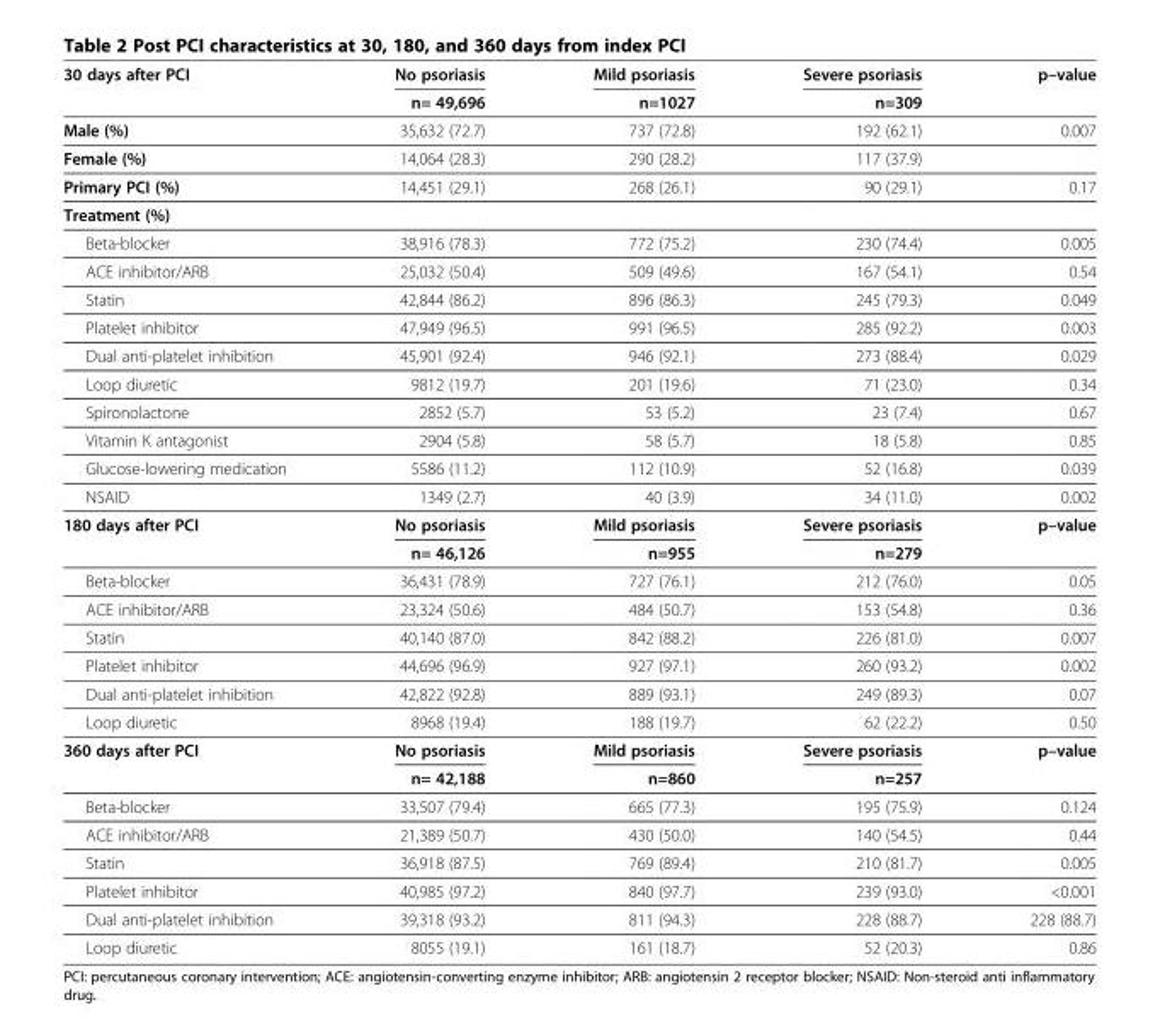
<table><thead><tr><td rowspan="2">30 days after PCI</td><td rowspan="2">No psoriasis n= 49,696</td><td rowspan="2">Mild psoriasis n=1027</td><td rowspan="2">Severe psoriasis n=309</td><td rowspan="2">p–value</td></tr><tr></tr></thead><tbody><tr><td>Male (%)</td><td>35,632 (72.7)</td><td>737 (72.8)</td><td>192 (62.1)</td><td>0.007</td></tr><tr><td>Female (%)</td><td>14,064 (28.3)</td><td>290 (28.2)</td><td>117 (37.9)</td><td></td></tr><tr><td>Primary PCI (%)</td><td>14,451 (29.1)</td><td>268 (26.1)</td><td>90 (29.1)</td><td>0.17</td></tr><tr><td colspan="5">Treatment (%)</td></tr><tr><td>Beta-blocker</td><td>38,916 (78.3)</td><td>772 (75.2)</td><td>230 (74.4)</td><td>0.005</td></tr><tr><td>ACE inhibitor/ARB</td><td>25,032 (50.4)</td><td>509 (49.6)</td><td>167 (54.1)</td><td>0.54</td></tr><tr><td>Statin</td><td>42,844 (86.2)</td><td>896 (86.3)</td><td>245 (79.3)</td><td>0.049</td></tr><tr><td>Platelet inhibitor</td><td>47,949 (96.5)</td><td>991 (96.5)</td><td>285 (92.2)</td><td>0.003</td></tr><tr><td>Dual anti-platelet inhibition</td><td>45,901 (92.4)</td><td>946 (92.1)</td><td>273 (88.4)</td><td>0.029</td></tr><tr><td>Loop diuretic</td><td>9812 (19.7)</td><td>201 (19.6)</td><td>71 (23.0)</td><td>0.34</td></tr><tr><td>Spironolactone</td><td>2852 (5.7)</td><td>53 (5.2)</td><td>23 (7.4)</td><td>0.67</td></tr><tr><td>Vitamin K antagonist</td><td>2904 (5.8)</td><td>58 (5.7)</td><td>18 (5.8)</td><td>0.85</td></tr><tr><td>Glucose-lowering medication</td><td>5586 (11.2)</td><td>112 (10.9)</td><td>52 (16.8)</td><td>0.039</td></tr><tr><td>NSAID</td><td>1349 (2.7)</td><td>40 (3.9)</td><td>34 (11.0)</td><td>0.002</td></tr><tr><td rowspan="2">180 days after PCI</td><td>No psoriasis</td><td>Mild psoriasis</td><td>Severe psoriasis</td><td>p–value</td></tr><tr><td>n= 46,126</td><td>n=955</td><td>n=279</td><td></td></tr><tr><td>Beta-blocker</td><td>36,431 (78.9)</td><td>727 (76.1)</td><td>212 (76.0)</td><td>0.05</td></tr><tr><td>ACE inhibitor/ARB</td><td>23,324 (50.6)</td><td>484 (50.7)</td><td>153 (54.8)</td><td>0.36</td></tr><tr><td>Statin</td><td>40,140 (87.0)</td><td>842 (88.2)</td><td>226 (81.0)</td><td>0.007</td></tr><tr><td>Platelet inhibitor</td><td>44,696 (96.9)</td><td>927 (97.1)</td><td>260 (93.2)</td><td>0.002</td></tr><tr><td>Dual anti-platelet inhibition</td><td>42,822 (92.8)</td><td>889 (93.1)</td><td>249 (89.3)</td><td>0.07</td></tr><tr><td>Loop diuretic</td><td>8968 (19.4)</td><td>188 (19.7)</td><td>62 (22.2)</td><td>0.50</td></tr><tr><td rowspan="2">360 days after PCI</td><td>No psoriasis</td><td>Mild psoriasis</td><td>Severe psoriasis</td><td>p–value</td></tr><tr><td>n= 42,188</td><td>n=860</td><td>n=257</td><td></td></tr><tr><td>Beta-blocker</td><td>33,507 (79.4)</td><td>665 (77.3)</td><td>195 (75.9)</td><td>0.124</td></tr><tr><td>ACE inhibitor/ARB</td><td>21,389 (50.7)</td><td>430 (50.0)</td><td>140 (54.5)</td><td>0.44</td></tr><tr><td>Statin</td><td>36,918 (87.5)</td><td>769 (89.4)</td><td>210 (81.7)</td><td>0.005</td></tr><tr><td>Platelet inhibitor</td><td>40,985 (97.2)</td><td>840 (97.7)</td><td>239 (93.0)</td><td>&lt;0.001</td></tr><tr><td>Dual anti-platelet inhibition</td><td>39,318 (93.2)</td><td>811 (94.3)</td><td>228 (88.7)</td><td>228 (88.7)</td></tr><tr><td>Loop diuretic</td><td>8055 (19.1)</td><td>161 (18.7)</td><td>52 (20.3)</td><td>0.86</td></tr></tbody></table>